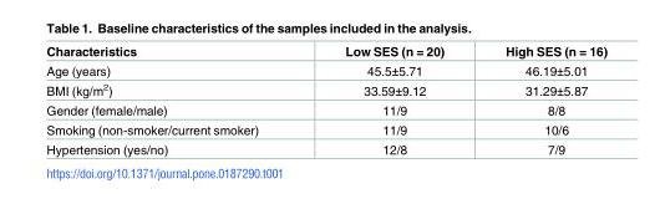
<table><thead><tr><td>Characteristics</td><td>Low SES (n = 20)</td><td>High SES (n = 16)</td></tr></thead><tbody><tr><td>Age (years)</td><td>45.5±5.71</td><td>46.19±5.01</td></tr><tr><td>BMI (kg/m<sup>2</sup>)</td><td>33.59±9.12</td><td>31.29±5.87</td></tr><tr><td>Gender (female/male)</td><td>11/9</td><td>8/8</td></tr><tr><td>Smoking (non-smoker/current smoker)</td><td>11/9</td><td>10/6</td></tr><tr><td>Hypertension (yes/no)</td><td>12/8</td><td>7/9</td></tr></tbody></table>